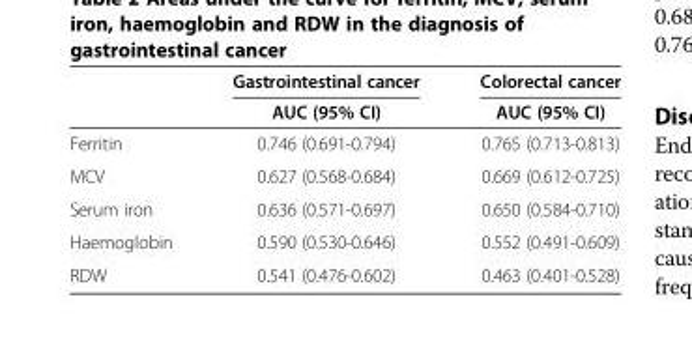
<table><thead><tr><td rowspan="2"></td><td rowspan="2">Gastrointestinal cancer AUC (95% CI)</td><td rowspan="2">Colorectal cancer AUC (95% CI)</td></tr><tr></tr></thead><tbody><tr><td>Ferritin</td><td>0.746 (0.691-0.794)</td><td>0.765 (0.713-0.813)</td></tr><tr><td>MCV</td><td>0.627 (0.568-0.684)</td><td>0.669 (0.612-0.725)</td></tr><tr><td>Serum iron</td><td>0.636 (0.571-0.697)</td><td>0.650 (0.584-0.710)</td></tr><tr><td>Haemoglobin</td><td>0.590 (0.530-0.646)</td><td>0.552 (0.491-0.609)</td></tr><tr><td>RDW</td><td>0.541 (0.476-0.602)</td><td>0.463 (0.401-0.528)</td></tr></tbody></table>